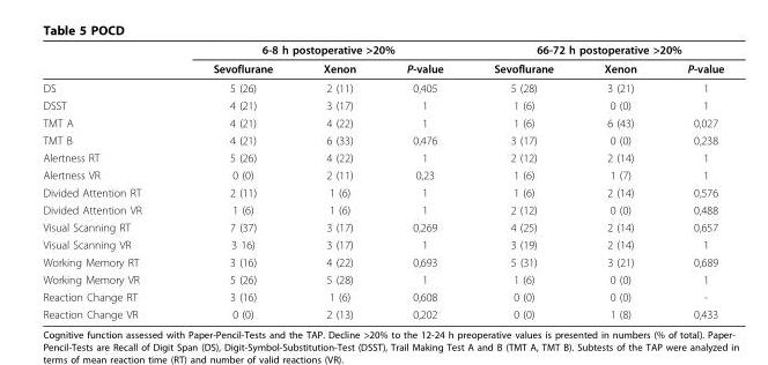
<table><thead><tr><td rowspan="2"></td><td colspan="3">6-8 h postoperative &gt;20%</td><td colspan="3">66-72 h postoperative &gt;20%</td></tr><tr><td>Sevoflurane</td><td>Xenon</td><td>P-value</td><td>Sevoflurane</td><td>Xenon</td><td>P-value</td></tr></thead><tbody><tr><td>DS</td><td>5 (26)</td><td>2 (11)</td><td>0,405</td><td>5 (28)</td><td>3 (21)</td><td>1</td></tr><tr><td>DSST</td><td>4 (21)</td><td>3 (17)</td><td>1</td><td>1 (6)</td><td>0 (0)</td><td>1</td></tr><tr><td>TMT A</td><td>4 (21)</td><td>4 (22)</td><td>1</td><td>1 (6)</td><td>6 (43)</td><td>0,027</td></tr><tr><td>TMT B</td><td>4 (21)</td><td>6 (33)</td><td>0,476</td><td>3 (17)</td><td>0 (0)</td><td>0,238</td></tr><tr><td>Alertness RT</td><td>5 (26)</td><td>4 (22)</td><td>1</td><td>2 (12)</td><td>2 (14)</td><td>1</td></tr><tr><td>Alertness VR</td><td>0 (0)</td><td>2 (11)</td><td>0,23</td><td>1 (6)</td><td>1 (7)</td><td>1</td></tr><tr><td>Divided Attention RT</td><td>2 (11)</td><td>1 (6)</td><td>1</td><td>1 (6)</td><td>2 (14)</td><td>0,576</td></tr><tr><td>Divided Attention VR</td><td>1 (6)</td><td>1 (6)</td><td>1</td><td>2 (12)</td><td>0 (0)</td><td>0,488</td></tr><tr><td>Visual Scanning RT</td><td>7 (37)</td><td>3 (17)</td><td>0,269</td><td>4 (25)</td><td>2 (14)</td><td>0,657</td></tr><tr><td>Visual Scanning VR</td><td>3 16)</td><td>3 (17)</td><td>1</td><td>3 (19)</td><td>2 (14)</td><td>1</td></tr><tr><td>Working Memory RT</td><td>3 (16)</td><td>4 (22)</td><td>0,693</td><td>5 (31)</td><td>3 (21)</td><td>0,689</td></tr><tr><td>Working Memory VR</td><td>5 (26)</td><td>5 (28)</td><td>1</td><td>1 (6)</td><td>0 (0)</td><td>1</td></tr><tr><td>Reaction Change RT</td><td>3 (16)</td><td>1 (6)</td><td>0,608</td><td>0 (0)</td><td>0 (0)</td><td>-</td></tr><tr><td>Reaction Change VR</td><td>0 (0)</td><td>2 (13)</td><td>0,202</td><td>0 (0)</td><td>1 (8)</td><td>0,433</td></tr></tbody></table>